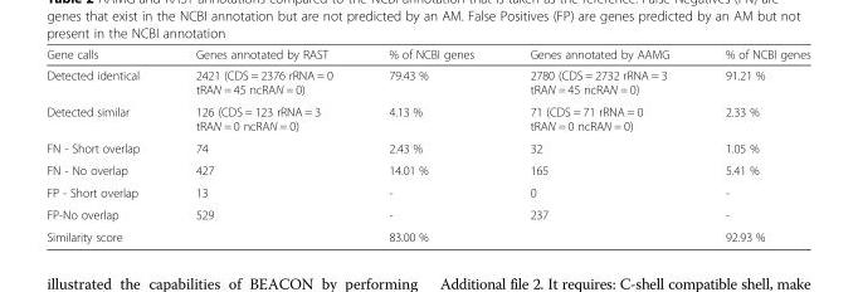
<table><thead><tr><td>Gene calls</td><td>Genes annotated by RAST</td><td>% of NCBI genes</td><td>Genes annotated by AAMG</td><td>% of NCBI genes</td></tr></thead><tbody><tr><td>Detected identical</td><td>2421 (CDS = 2376 rRNA = 0 tRAN = 45 ncRAN = 0)</td><td>79.43 %</td><td>2780 (CDS = 2732 rRNA = 3 tRAN = 45 ncRAN = 0)</td><td>91.21 %</td></tr><tr><td>Detected similar</td><td>126 (CDS = 123 rRNA = 3 tRAN = 0 ncRAN = 0)</td><td>4.13 %</td><td>71 (CDS = 71 rRNA = 0 tRAN = 0 ncRAN = 0)</td><td>2.33 %</td></tr><tr><td>FN - Short overlap</td><td>74</td><td>2.43 %</td><td>32</td><td>1.05 %</td></tr><tr><td>FN - No overlap</td><td>427</td><td>14.01 %</td><td>165</td><td>5.41 %</td></tr><tr><td>FP - Short overlap</td><td>13</td><td>-</td><td>0</td><td>-</td></tr><tr><td>FP-No overlap</td><td>529</td><td>-</td><td>237</td><td>-</td></tr><tr><td>Similarity score</td><td></td><td>83.00 %</td><td></td><td>92.93 %</td></tr></tbody></table>